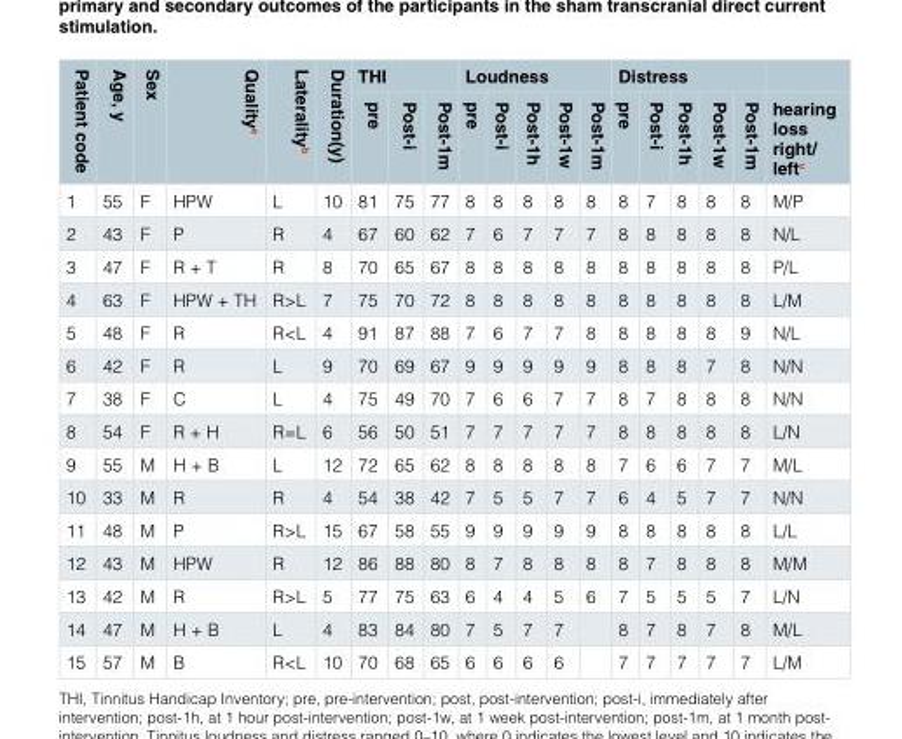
<table><thead><tr><td rowspan="2">Patient code</td><td rowspan="2">Age, y</td><td rowspan="2">Sex</td><td rowspan="2">Quality<sup>a</sup></td><td rowspan="2">Laterality<sup>b</sup></td><td rowspan="2">Duration(y)</td><td colspan="3">THI</td><td colspan="5">Loudness</td><td colspan="5">Distress</td><td rowspan="2">hearing loss right/ left<sup>c</sup></td></tr><tr><td>pre</td><td>Post-i</td><td>Post-1m</td><td>pre</td><td>Post-i</td><td>Post-1h</td><td>Post-1w</td><td>Post-1m</td><td>pre</td><td>Post-i</td><td>Post-1h</td><td>Post-1w</td><td>Post-1m</td></tr></thead><tbody><tr><td>1</td><td>55</td><td>F</td><td>HPW</td><td>L</td><td>10</td><td>81</td><td>75</td><td>77</td><td>8</td><td>8</td><td>8</td><td>8</td><td>8</td><td>8</td><td>7</td><td>8</td><td>8</td><td>8</td><td>M/P</td></tr><tr><td>2</td><td>43</td><td>F</td><td>P</td><td>R</td><td>4</td><td>67</td><td>60</td><td>62</td><td>7</td><td>6</td><td>7</td><td>7</td><td>7</td><td>8</td><td>8</td><td>8</td><td>8</td><td>8</td><td>N/L</td></tr><tr><td>3</td><td>47</td><td>F</td><td>R + T</td><td>R</td><td>8</td><td>70</td><td>65</td><td>67</td><td>8</td><td>8</td><td>8</td><td>8</td><td>8</td><td>8</td><td>8</td><td>8</td><td>8</td><td>8</td><td>P/L</td></tr><tr><td>4</td><td>63</td><td>F</td><td>HPW + TH</td><td>R&gt;L</td><td>7</td><td>75</td><td>70</td><td>72</td><td>8</td><td>8</td><td>8</td><td>8</td><td>8</td><td>8</td><td>8</td><td>8</td><td>8</td><td>8</td><td>L/M</td></tr><tr><td>5</td><td>48</td><td>F</td><td>R</td><td>R&lt;L</td><td>4</td><td>91</td><td>87</td><td>88</td><td>7</td><td>6</td><td>7</td><td>7</td><td>8</td><td>8</td><td>8</td><td>8</td><td>8</td><td>9</td><td>N/L</td></tr><tr><td>6</td><td>42</td><td>F</td><td>R</td><td>L</td><td>9</td><td>70</td><td>69</td><td>67</td><td>9</td><td>9</td><td>9</td><td>9</td><td>9</td><td>8</td><td>8</td><td>8</td><td>7</td><td>8</td><td>N/N</td></tr><tr><td>7</td><td>38</td><td>F</td><td>C</td><td>L</td><td>4</td><td>75</td><td>49</td><td>70</td><td>7</td><td>6</td><td>6</td><td>7</td><td>7</td><td>8</td><td>7</td><td>8</td><td>8</td><td>8</td><td>N/N</td></tr><tr><td>8</td><td>54</td><td>F</td><td>R + H</td><td>R=L</td><td>6</td><td>56</td><td>50</td><td>51</td><td>7</td><td>7</td><td>7</td><td>7</td><td>7</td><td>8</td><td>8</td><td>8</td><td>8</td><td>8</td><td>L/N</td></tr><tr><td>9</td><td>55</td><td>M</td><td>H + B</td><td>L</td><td>12</td><td>72</td><td>65</td><td>62</td><td>8</td><td>8</td><td>8</td><td>8</td><td>8</td><td>7</td><td>6</td><td>6</td><td>7</td><td>7</td><td>M/L</td></tr><tr><td>10</td><td>33</td><td>M</td><td>R</td><td>R</td><td>4</td><td>54</td><td>38</td><td>42</td><td>7</td><td>5</td><td>5</td><td>7</td><td>7</td><td>6</td><td>4</td><td>5</td><td>7</td><td>7</td><td>N/N</td></tr><tr><td>11</td><td>48</td><td>M</td><td>P</td><td>R&gt;L</td><td>15</td><td>67</td><td>58</td><td>55</td><td>9</td><td>9</td><td>9</td><td>9</td><td>9</td><td>8</td><td>8</td><td>8</td><td>8</td><td>8</td><td>L/L</td></tr><tr><td>12</td><td>43</td><td>M</td><td>HPW</td><td>R</td><td>12</td><td>86</td><td>88</td><td>80</td><td>8</td><td>7</td><td>8</td><td>8</td><td>8</td><td>8</td><td>7</td><td>8</td><td>8</td><td>8</td><td>M/M</td></tr><tr><td>13</td><td>42</td><td>M</td><td>R</td><td>R&gt;L</td><td>5</td><td>77</td><td>75</td><td>63</td><td>6</td><td>4</td><td>4</td><td>5</td><td>6</td><td>7</td><td>5</td><td>5</td><td>5</td><td>7</td><td>L/N</td></tr><tr><td>14</td><td>47</td><td>M</td><td>H + B</td><td>L</td><td>4</td><td>83</td><td>84</td><td>80</td><td>7</td><td>5</td><td>7</td><td>7</td><td></td><td>8</td><td>7</td><td>8</td><td>7</td><td>8</td><td>M/L</td></tr><tr><td>15</td><td>57</td><td>M</td><td>B</td><td>R&lt;L</td><td>10</td><td>70</td><td>68</td><td>65</td><td>6</td><td>6</td><td>6</td><td>6</td><td></td><td>7</td><td>7</td><td>7</td><td>7</td><td>7</td><td>L/M</td></tr></tbody></table>